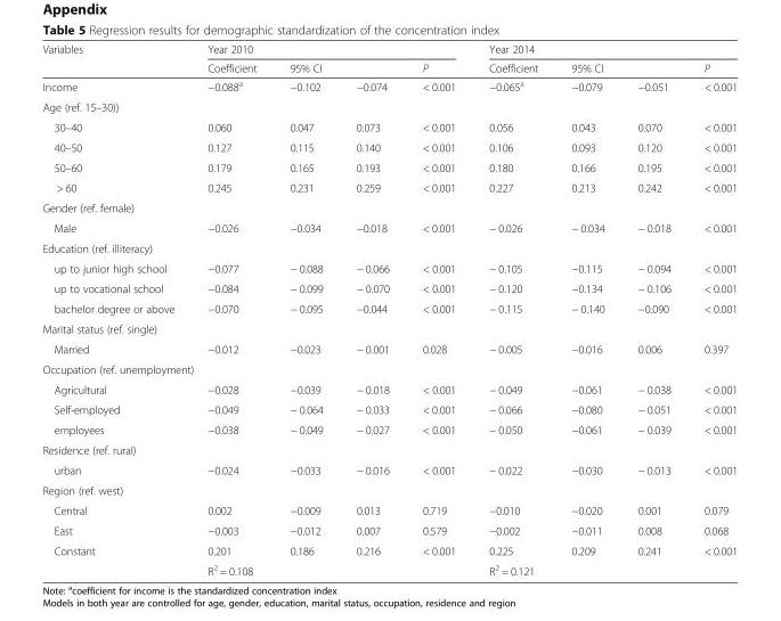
<table><thead><tr><td rowspan="3">Variables Income</td><td colspan="4">Year 2010</td><td colspan="4">Year 2014</td></tr><tr><td rowspan="2">Coefficient −0.088<sup>a</sup></td><td colspan="2">95% CI</td><td rowspan="2">P &lt; 0.001</td><td rowspan="2">Coefficient −0.065<sup>a</sup></td><td colspan="2">95% CI</td><td rowspan="2">P &lt; 0.001</td></tr><tr><td>−0.102</td><td>−0.074</td><td>−0.079</td><td>−0.051</td></tr></thead><tbody><tr><td colspan="9">Age (ref. 15–30))</td></tr><tr><td>30–40</td><td>0.060</td><td>0.047</td><td>0.073</td><td>&lt; 0.001</td><td>0.056</td><td>0.043</td><td>0.070</td><td>&lt; 0.001</td></tr><tr><td>40–50</td><td>0.127</td><td>0.115</td><td>0.140</td><td>&lt; 0.001</td><td>0.106</td><td>0.093</td><td>0.120</td><td>&lt; 0.001</td></tr><tr><td>50–60</td><td>0.179</td><td>0.165</td><td>0.193</td><td>&lt; 0.001</td><td>0.180</td><td>0.166</td><td>0.195</td><td>&lt; 0.001</td></tr><tr><td>&gt; 60</td><td>0.245</td><td>0.231</td><td>0.259</td><td>&lt; 0.001</td><td>0.227</td><td>0.213</td><td>0.242</td><td>&lt; 0.001</td></tr><tr><td colspan="9">Gender (ref. female)</td></tr><tr><td>Male</td><td>−0.026</td><td>−0.034</td><td>−0.018</td><td>&lt; 0.001</td><td>− 0.026</td><td>− 0.034</td><td>− 0.018</td><td>&lt; 0.001</td></tr><tr><td colspan="9">Education (ref. illiteracy)</td></tr><tr><td>up to junior high school</td><td>−0.077</td><td>− 0.088</td><td>− 0.066</td><td>&lt; 0.001</td><td>− 0.105</td><td>−0.115</td><td>− 0.094</td><td>&lt; 0.001</td></tr><tr><td>up to vocational school</td><td>−0.084</td><td>− 0.099</td><td>− 0.070</td><td>&lt; 0.001</td><td>− 0.120</td><td>−0.134</td><td>− 0.106</td><td>&lt; 0.001</td></tr><tr><td>bachelor degree or above</td><td>−0.070</td><td>− 0.095</td><td>−0.044</td><td>&lt; 0.001</td><td>− 0.115</td><td>− 0.140</td><td>−0.090</td><td>&lt; 0.001</td></tr><tr><td colspan="9">Marital status (ref. single)</td></tr><tr><td>Married</td><td>−0.012</td><td>−0.023</td><td>− 0.001</td><td>0.028</td><td>− 0.005</td><td>−0.016</td><td>0.006</td><td>0.397</td></tr><tr><td colspan="9">Occupation (ref. unemployment)</td></tr><tr><td>Agricultural</td><td>−0.028</td><td>−0.039</td><td>− 0.018</td><td>&lt; 0.001</td><td>− 0.049</td><td>−0.061</td><td>− 0.038</td><td>&lt; 0.001</td></tr><tr><td>Self-employed</td><td>−0.049</td><td>− 0.064</td><td>− 0.033</td><td>&lt; 0.001</td><td>− 0.066</td><td>−0.080</td><td>− 0.051</td><td>&lt; 0.001</td></tr><tr><td>employees</td><td>−0.038</td><td>− 0.049</td><td>− 0.027</td><td>&lt; 0.001</td><td>− 0.050</td><td>−0.061</td><td>− 0.039</td><td>&lt; 0.001</td></tr><tr><td colspan="9">Residence (ref. rural)</td></tr><tr><td>urban</td><td>−0.024</td><td>−0.033</td><td>− 0.016</td><td>&lt; 0.001</td><td>− 0.022</td><td>−0.030</td><td>− 0.013</td><td>&lt; 0.001</td></tr><tr><td colspan="9">Region (ref. west)</td></tr><tr><td>Central</td><td>0.002</td><td>−0.009</td><td>0.013</td><td>0.719</td><td>−0.010</td><td>−0.020</td><td>0.001</td><td>0.079</td></tr><tr><td>East</td><td>−0.003</td><td>−0.012</td><td>0.007</td><td>0.579</td><td>−0.002</td><td>−0.011</td><td>0.008</td><td>0.068</td></tr><tr><td rowspan="2">Constant</td><td>0.201</td><td>0.186</td><td>0.216</td><td>&lt; 0.001</td><td>0.225</td><td>0.209</td><td>0.241</td><td>&lt; 0.001</td></tr><tr><td colspan="4">R<sup>2</sup> = 0.108</td><td colspan="4">R<sup>2</sup> = 0.121</td></tr></tbody></table>